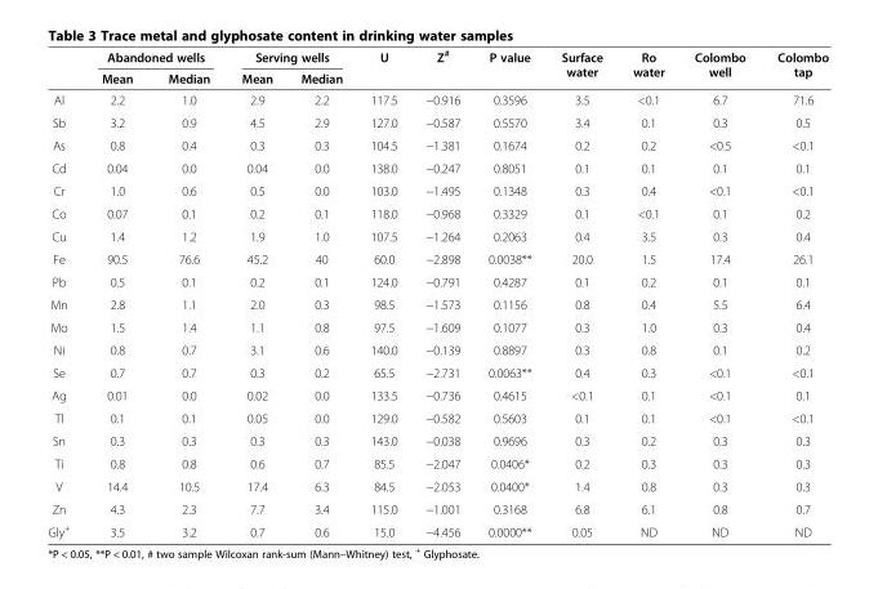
<table><thead><tr><td rowspan="2"></td><td colspan="2">Abandoned wells</td><td colspan="2">Serving wells</td><td rowspan="2">U</td><td rowspan="2">Z<sup>#</sup></td><td rowspan="2">P value</td><td rowspan="2">Surface water</td><td rowspan="2">Ro water</td><td rowspan="2">Colombo well</td><td rowspan="2">Colombo tap</td></tr><tr><td>Mean</td><td>Median</td><td>Mean</td><td>Median</td></tr></thead><tbody><tr><td>Al</td><td>2.2</td><td>1.0</td><td>2.9</td><td>2.2</td><td>117.5</td><td>−0.916</td><td>0.3596</td><td>3.5</td><td>&lt;0.1</td><td>6.7</td><td>71.6</td></tr><tr><td>Sb</td><td>3.2</td><td>0.9</td><td>4.5</td><td>2.9</td><td>127.0</td><td>−0.587</td><td>0.5570</td><td>3.4</td><td>0.1</td><td>0.3</td><td>0.5</td></tr><tr><td>As</td><td>0.8</td><td>0.4</td><td>0.3</td><td>0.3</td><td>104.5</td><td>−1.381</td><td>0.1674</td><td>0.2</td><td>0.2</td><td>&lt;0.5</td><td>&lt;0.1</td></tr><tr><td>Cd</td><td>0.04</td><td>0.0</td><td>0.04</td><td>0.0</td><td>138.0</td><td>−0.247</td><td>0.8051</td><td>0.1</td><td>0.1</td><td>0.1</td><td>0.1</td></tr><tr><td>Cr</td><td>1.0</td><td>0.6</td><td>0.5</td><td>0.0</td><td>103.0</td><td>−1.495</td><td>0.1348</td><td>0.3</td><td>0.4</td><td>&lt;0.1</td><td>&lt;0.1</td></tr><tr><td>Co</td><td>0.07</td><td>0.1</td><td>0.2</td><td>0.1</td><td>118.0</td><td>−0.968</td><td>0.3329</td><td>0.1</td><td>&lt;0.1</td><td>0.1</td><td>0.2</td></tr><tr><td>Cu</td><td>1.4</td><td>1.2</td><td>1.9</td><td>1.0</td><td>107.5</td><td>−1.264</td><td>0.2063</td><td>0.4</td><td>3.5</td><td>0.3</td><td>0.4</td></tr><tr><td>Fe</td><td>90.5</td><td>76.6</td><td>45.2</td><td>40</td><td>60.0</td><td>−2.898</td><td>0.0038**</td><td>20.0</td><td>1.5</td><td>17.4</td><td>26.1</td></tr><tr><td>Pb</td><td>0.5</td><td>0.1</td><td>0.2</td><td>0.1</td><td>124.0</td><td>−0.791</td><td>0.4287</td><td>0.1</td><td>0.2</td><td>0.1</td><td>0.1</td></tr><tr><td>Mn</td><td>2.8</td><td>1.1</td><td>2.0</td><td>0.3</td><td>98.5</td><td>−1.573</td><td>0.1156</td><td>0.8</td><td>0.4</td><td>5.5</td><td>6.4</td></tr><tr><td>Mo</td><td>1.5</td><td>1.4</td><td>1.1</td><td>0.8</td><td>97.5</td><td>−1.609</td><td>0.1077</td><td>0.3</td><td>1.0</td><td>0.3</td><td>0.4</td></tr><tr><td>Ni</td><td>0.8</td><td>0.7</td><td>3.1</td><td>0.6</td><td>140.0</td><td>−0.139</td><td>0.8897</td><td>0.3</td><td>0.8</td><td>0.1</td><td>0.2</td></tr><tr><td>Se</td><td>0.7</td><td>0.7</td><td>0.3</td><td>0.2</td><td>65.5</td><td>−2.731</td><td>0.0063**</td><td>0.4</td><td>0.3</td><td>&lt;0.1</td><td>&lt;0.1</td></tr><tr><td>Ag</td><td>0.01</td><td>0.0</td><td>0.02</td><td>0.0</td><td>133.5</td><td>−0.736</td><td>0.4615</td><td>&lt;0.1</td><td>0.1</td><td>&lt;0.1</td><td>0.1</td></tr><tr><td>Tl</td><td>0.1</td><td>0.1</td><td>0.05</td><td>0.0</td><td>129.0</td><td>−0.582</td><td>0.5603</td><td>0.1</td><td>0.1</td><td>&lt;0.1</td><td>&lt;0.1</td></tr><tr><td>Sn</td><td>0.3</td><td>0.3</td><td>0.3</td><td>0.3</td><td>143.0</td><td>−0.038</td><td>0.9696</td><td>0.3</td><td>0.2</td><td>0.3</td><td>0.3</td></tr><tr><td>Ti</td><td>0.8</td><td>0.8</td><td>0.6</td><td>0.7</td><td>85.5</td><td>−2.047</td><td>0.0406*</td><td>0.2</td><td>0.3</td><td>0.3</td><td>0.3</td></tr><tr><td>V</td><td>14.4</td><td>10.5</td><td>17.4</td><td>6.3</td><td>84.5</td><td>−2.053</td><td>0.0400*</td><td>1.4</td><td>0.8</td><td>0.3</td><td>0.3</td></tr><tr><td>Zn</td><td>4.3</td><td>2.3</td><td>7.7</td><td>3.4</td><td>115.0</td><td>−1.001</td><td>0.3168</td><td>6.8</td><td>6.1</td><td>0.8</td><td>0.7</td></tr><tr><td>Gly<sup>+</sup></td><td>3.5</td><td>3.2</td><td>0.7</td><td>0.6</td><td>15.0</td><td>−4.456</td><td>0.0000**</td><td>0.05</td><td>ND</td><td>ND</td><td>ND</td></tr></tbody></table>